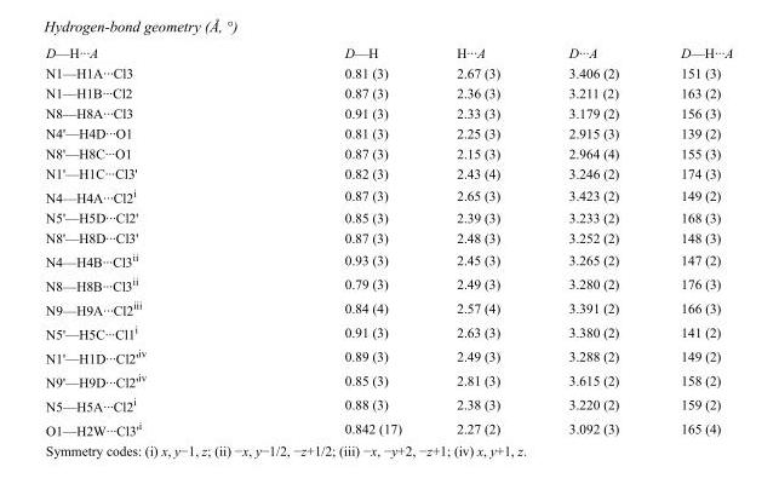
<table><tbody><tr><td>D—H···A</td><td>D—H</td><td>H···A</td><td>D···A</td><td>D—H···A</td></tr><tr><td>N1—H1A···Cl3</td><td>0.81 (3)</td><td>2.67 (3)</td><td>3.406 (2)</td><td>151 (3)</td></tr><tr><td>N1—H1B···Cl2</td><td>0.87 (3)</td><td>2.36 (3)</td><td>3.211 (2)</td><td>163 (2)</td></tr><tr><td>N8—H8A···Cl3</td><td>0.91 (3)</td><td>2.33 (3)</td><td>3.179 (2)</td><td>156 (3)</td></tr><tr><td>N4&#x27;—H4D···O1</td><td>0.81 (3)</td><td>2.25 (3)</td><td>2.915 (3)</td><td>139 (2)</td></tr><tr><td>N8&#x27;—H8C···O1</td><td>0.87 (3)</td><td>2.15 (3)</td><td>2.964 (4)</td><td>155 (3)</td></tr><tr><td>N1&#x27;—H1C···Cl3&#x27;</td><td>0.82 (3)</td><td>2.43 (4)</td><td>3.246 (2)</td><td>174 (3)</td></tr><tr><td>N4—H4A···Cl2<sup>i</sup></td><td>0.87 (3)</td><td>2.65 (3)</td><td>3.423 (2)</td><td>149 (2)</td></tr><tr><td>N5&#x27;—H5D···Cl2&#x27;</td><td>0.85 (3)</td><td>2.39 (3)</td><td>3.233 (2)</td><td>168 (3)</td></tr><tr><td>N8&#x27;—H8D···Cl3&#x27;</td><td>0.87 (3)</td><td>2.48 (3)</td><td>3.252 (2)</td><td>148 (3)</td></tr><tr><td>N4—H4B···Cl3<sup>ii</sup></td><td>0.93 (3)</td><td>2.45 (3)</td><td>3.265 (2)</td><td>147 (2)</td></tr><tr><td>N8—H8B···Cl3<sup>ii</sup></td><td>0.79 (3)</td><td>2.49 (3)</td><td>3.280 (2)</td><td>176 (3)</td></tr><tr><td>N9—H9A···Cl2<sup>iii</sup></td><td>0.84 (4)</td><td>2.57 (4)</td><td>3.391 (2)</td><td>166 (3)</td></tr><tr><td>N5&#x27;—H5C···Cl1<sup>i</sup></td><td>0.91 (3)</td><td>2.63 (3)</td><td>3.380 (2)</td><td>141 (2)</td></tr><tr><td>N1&#x27;—H1D···Cl2&#x27;<sup>iv</sup></td><td>0.89 (3)</td><td>2.49 (3)</td><td>3.288 (2)</td><td>149 (2)</td></tr><tr><td>N9&#x27;—H9D···Cl2&#x27;<sup>iv</sup></td><td>0.85 (3)</td><td>2.81 (3)</td><td>3.615 (2)</td><td>158 (2)</td></tr><tr><td>N5—H5A···Cl2<sup>i</sup></td><td>0.88 (3)</td><td>2.38 (3)</td><td>3.220 (2)</td><td>159 (2)</td></tr><tr><td>O1—H2W···Cl3&#x27;<sup>i</sup></td><td>0.842 (17)</td><td>2.27 (2)</td><td>3.092 (3)</td><td>165 (4)</td></tr></tbody></table>